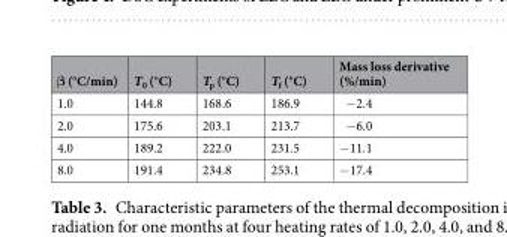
<table><thead><tr><td>β (°C/min)</td><td>T<sub>0</sub> (°C)</td><td>T<sub>p</sub> (°C)</td><td>T<sub>f</sub> (°C)</td><td>Mass loss derivative (%/min)</td></tr></thead><tbody><tr><td>1.0</td><td>144.8</td><td>168.6</td><td>186.9</td><td>−2.4</td></tr><tr><td>2.0</td><td>175.6</td><td>203.1</td><td>213.7</td><td>−6.0</td></tr><tr><td>4.0</td><td>189.2</td><td>222.0</td><td>231.5</td><td>−11.1</td></tr><tr><td>8.0</td><td>191.4</td><td>234.8</td><td>253.1</td><td>−17.4</td></tr></tbody></table>